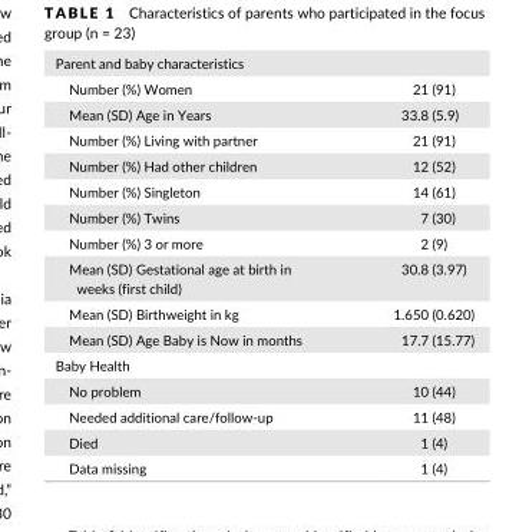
<table><tbody><tr><td colspan="2">Parent and baby characteristics</td></tr><tr><td>Number (%) Women</td><td>21 (91)</td></tr><tr><td>Mean (SD) Age in Years</td><td>33.8 (5.9)</td></tr><tr><td>Number (%) Living with partner</td><td>21 (91)</td></tr><tr><td>Number (%) Had other children</td><td>12 (52)</td></tr><tr><td>Number (%) Singleton</td><td>14 (61)</td></tr><tr><td>Number (%) Twins</td><td>7 (30)</td></tr><tr><td>Number (%) 3 or more</td><td>2 (9)</td></tr><tr><td>Mean (SD) Gestational age at birth in weeks (first child)</td><td>30.8 (3.97)</td></tr><tr><td>Mean (SD) Birthweight in kg</td><td>1.650 (0.620)</td></tr><tr><td>Mean (SD) Age Baby is Now in months</td><td>17.7 (15.77)</td></tr><tr><td colspan="2">Baby Health</td></tr><tr><td>No problem</td><td>10 (44)</td></tr><tr><td>Needed additional care/follow- up</td><td>11 (48)</td></tr><tr><td>Died</td><td>1 (4)</td></tr><tr><td>Data missing</td><td>1 (4)</td></tr></tbody></table>